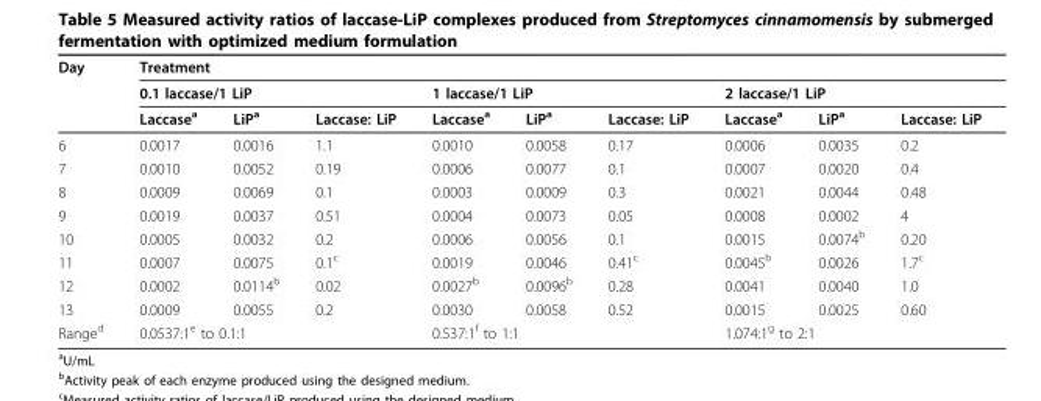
<table><thead><tr><td rowspan="3">Day</td><td colspan="9">Treatment</td></tr><tr><td colspan="3">0.1 laccase/1 LiP</td><td colspan="3">1 laccase/1 LiP</td><td colspan="3">2 laccase/1 LiP</td></tr><tr><td>Laccase<sup>a</sup></td><td>LiP<sup>a</sup></td><td>Laccase: LiP</td><td>Laccase<sup>a</sup></td><td>LiP<sup>a</sup></td><td>Laccase: LiP</td><td>Laccase<sup>a</sup></td><td>LiP<sup>a</sup></td><td>Laccase: LiP</td></tr></thead><tbody><tr><td>6</td><td>0.0017</td><td>0.0016</td><td>1.1</td><td>0.0010</td><td>0.0058</td><td>0.17</td><td>0.0006</td><td>0.0035</td><td>0.2</td></tr><tr><td>7</td><td>0.0010</td><td>0.0052</td><td>0.19</td><td>0.0006</td><td>0.0077</td><td>0.1</td><td>0.0007</td><td>0.0020</td><td>0.4</td></tr><tr><td>8</td><td>0.0009</td><td>0.0069</td><td>0.1</td><td>0.0003</td><td>0.0009</td><td>0.3</td><td>0.0021</td><td>0.0044</td><td>0.48</td></tr><tr><td>9</td><td>0.0019</td><td>0.0037</td><td>0.51</td><td>0.0004</td><td>0.0073</td><td>0.05</td><td>0.0008</td><td>0.0002</td><td>4</td></tr><tr><td>10</td><td>0.0005</td><td>0.0032</td><td>0.2</td><td>0.0006</td><td>0.0056</td><td>0.1</td><td>0.0015</td><td>0.0074<sup>b</sup></td><td>0.20</td></tr><tr><td>11</td><td>0.0007</td><td>0.0075</td><td>0.1<sup>c</sup></td><td>0.0019</td><td>0.0046</td><td>0.41<sup>c</sup></td><td>0.0045<sup>b</sup></td><td>0.0026</td><td>1.7<sup>c</sup></td></tr><tr><td>12</td><td>0.0002</td><td>0.0114<sup>b</sup></td><td>0.02</td><td>0.0027<sup>b</sup></td><td>0.0096<sup>b</sup></td><td>0.28</td><td>0.0041</td><td>0.0040</td><td>1.0</td></tr><tr><td>13</td><td>0.0009</td><td>0.0055</td><td>0.2</td><td>0.0030</td><td>0.0058</td><td>0.52</td><td>0.0015</td><td>0.0025</td><td>0.60</td></tr><tr><td>Range<sup>d</sup></td><td colspan="3">0.0537:1<sup>e</sup> to 0.1:1</td><td colspan="3">0.537:1<sup>f</sup> to 1:1</td><td colspan="3">1.074:1<sup>g</sup> to 2:1</td></tr></tbody></table>